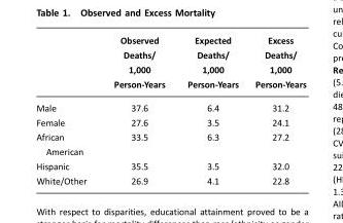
<table><thead><tr><td></td><td>Observed Deaths/ 1,000 Person-Years</td><td>Expected Deaths/ 1,000 Person-Years</td><td>Excess Deaths/ 1,000 Person-Years</td></tr></thead><tbody><tr><td>Male</td><td>37.6</td><td>6.4</td><td>31.2</td></tr><tr><td>Female</td><td>27.6</td><td>3.5</td><td>24.1</td></tr><tr><td>African American</td><td>33.5</td><td>6.3</td><td>27.2</td></tr><tr><td>Hispanic</td><td>35.5</td><td>3.5</td><td>32.0</td></tr><tr><td>White/Other</td><td>26.9</td><td>4.1</td><td>22.8</td></tr></tbody></table>